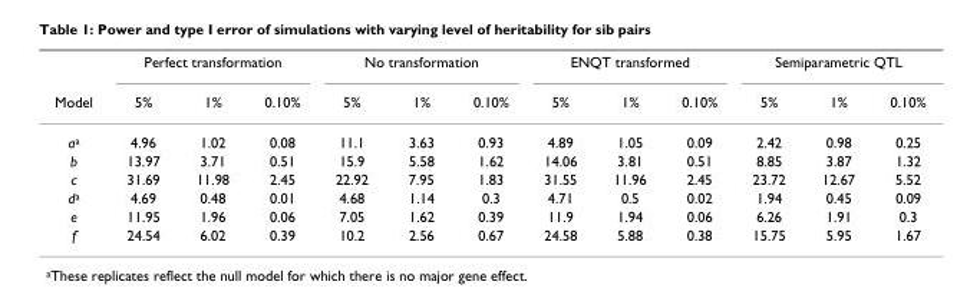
<table><thead><tr><td rowspan="2">Model</td><td colspan="3">Perfect transformation</td><td colspan="3">No transformation</td><td colspan="3">ENQT transformed</td><td colspan="3">Semiparametric QTL</td></tr><tr><td>5%</td><td>1%</td><td>0.10%</td><td>5%</td><td>1%</td><td>0.10%</td><td>5%</td><td>1%</td><td>0.10%</td><td>5%</td><td>1%</td><td>0.10%</td></tr></thead><tbody><tr><td>a<sup>a</sup></td><td>4.96</td><td>1.02</td><td>0.08</td><td>11.1</td><td>3.63</td><td>0.93</td><td>4.89</td><td>1.05</td><td>0.09</td><td>2.42</td><td>0.98</td><td>0.25</td></tr><tr><td>b</td><td>13.97</td><td>3.71</td><td>0.51</td><td>15.9</td><td>5.58</td><td>1.62</td><td>14.06</td><td>3.81</td><td>0.51</td><td>8.85</td><td>3.87</td><td>1.32</td></tr><tr><td>c</td><td>31.69</td><td>11.98</td><td>2.45</td><td>22.92</td><td>7.95</td><td>1.83</td><td>31.55</td><td>11.96</td><td>2.45</td><td>23.72</td><td>12.67</td><td>5.52</td></tr><tr><td>d<sup>a</sup></td><td>4.69</td><td>0.48</td><td>0.01</td><td>4.68</td><td>1.14</td><td>0.3</td><td>4.71</td><td>0.5</td><td>0.02</td><td>1.94</td><td>0.45</td><td>0.09</td></tr><tr><td>e</td><td>11.95</td><td>1.96</td><td>0.06</td><td>7.05</td><td>1.62</td><td>0.39</td><td>11.9</td><td>1.94</td><td>0.06</td><td>6.26</td><td>1.91</td><td>0.3</td></tr><tr><td>f</td><td>24.54</td><td>6.02</td><td>0.39</td><td>10.2</td><td>2.56</td><td>0.67</td><td>24.58</td><td>5.88</td><td>0.38</td><td>15.75</td><td>5.95</td><td>1.67</td></tr></tbody></table>